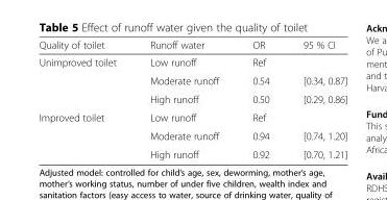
<table><thead><tr><td>Quality of toilet</td><td>Runoff water</td><td>OR</td><td>95 % CI</td></tr></thead><tbody><tr><td rowspan="3">Unimproved toilet</td><td>Low runoff</td><td>Ref</td><td></td></tr><tr><td>Moderate runoff</td><td>0.54</td><td>[0.34, 0.87]</td></tr><tr><td>High runoff</td><td>0.50</td><td>[0.29, 0.86]</td></tr><tr><td rowspan="3">Improved toilet</td><td>Low runoff</td><td>Ref</td><td></td></tr><tr><td>Moderate runoff</td><td>0.94</td><td>[0.74, 1.20]</td></tr><tr><td>High runoff</td><td>0.92</td><td>[0.70, 1.21]</td></tr></tbody></table>